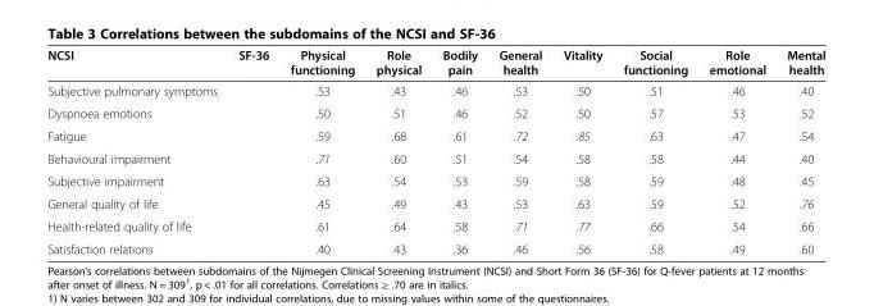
<table><thead><tr><td>NCSI</td><td>SF-36</td><td>Physical functioning</td><td>Role physical</td><td>Bodily pain</td><td>General health</td><td>Vitality</td><td>Social functioning</td><td>Role emotional</td><td>Mental health</td></tr></thead><tbody><tr><td>Subjective pulmonary symptoms</td><td></td><td>.53</td><td>.43</td><td>.46</td><td>.53</td><td>.50</td><td>.51</td><td>.46</td><td>.40</td></tr><tr><td>Dyspnoea emotions</td><td></td><td>.50</td><td>.51</td><td>.46</td><td>.52</td><td>.50</td><td>.57</td><td>.53</td><td>.52</td></tr><tr><td>Fatigue</td><td></td><td>.59</td><td>.68</td><td>.61</td><td>.72</td><td>.85</td><td>.63</td><td>.47</td><td>.54</td></tr><tr><td>Behavioural impairment</td><td></td><td>.71</td><td>.60</td><td>.51</td><td>.54</td><td>.58</td><td>.58</td><td>.44</td><td>.40</td></tr><tr><td>Subjective impairment</td><td></td><td>.63</td><td>.54</td><td>.53</td><td>.59</td><td>.58</td><td>.59</td><td>.48</td><td>.45</td></tr><tr><td>General quality of life</td><td></td><td>.45</td><td>.49</td><td>.43</td><td>.53</td><td>.63</td><td>.59</td><td>.52</td><td>.76</td></tr><tr><td>Health-related quality of life</td><td></td><td>.61</td><td>.64</td><td>.58</td><td>.71</td><td>.77</td><td>.66</td><td>.54</td><td>.66</td></tr><tr><td>Satisfaction relations</td><td></td><td>.40</td><td>.43</td><td>.36</td><td>.46</td><td>.56</td><td>.58</td><td>.49</td><td>.60</td></tr></tbody></table>